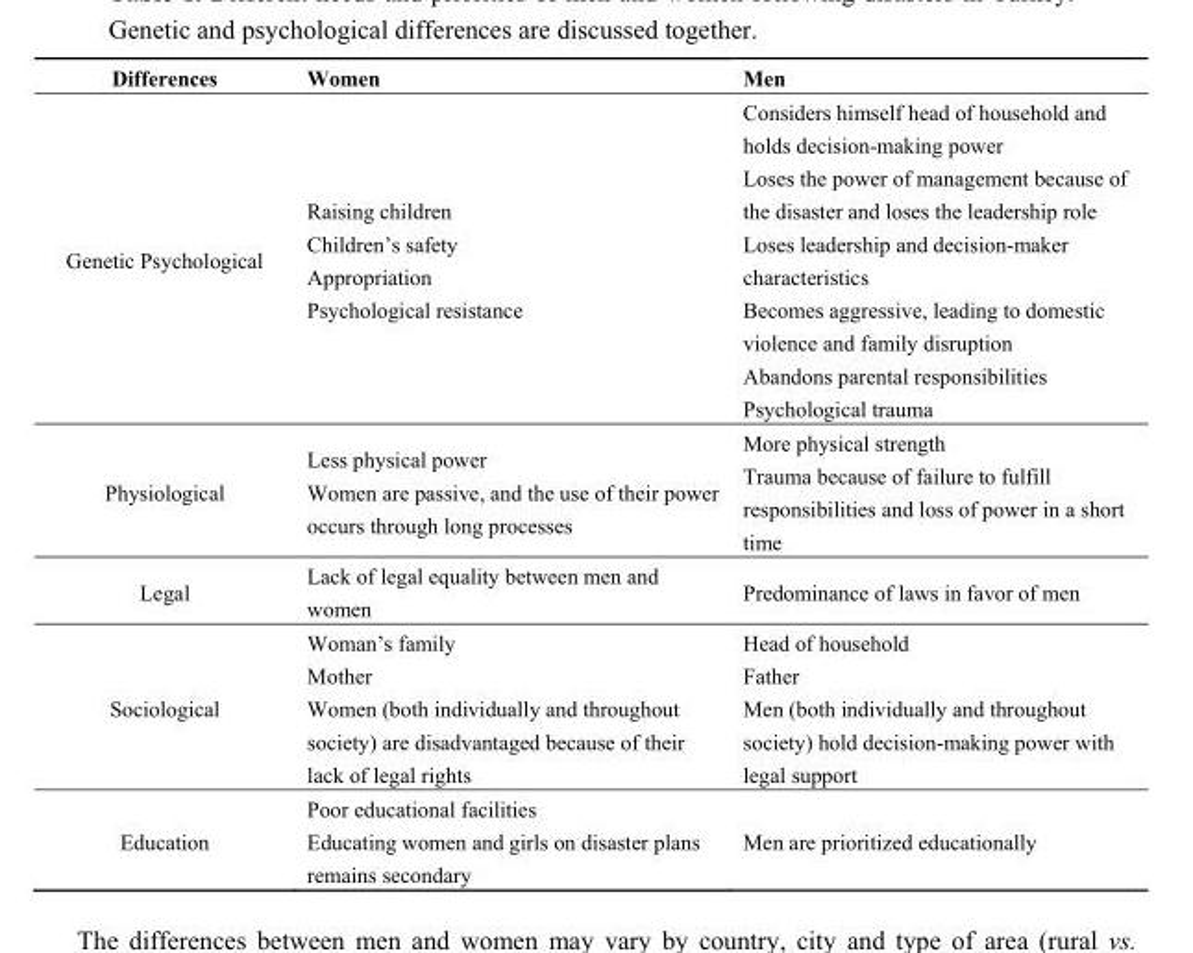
<table><thead><tr><td>Differences</td><td>Women</td><td>Men</td></tr></thead><tbody><tr><td>Genetic Psychological</td><td>Raising children Children’s safety Appropriation Psychological resistance</td><td>Considers himself head of household and holds decision-making power Loses the power of management because of the disaster and loses the leadership role Loses leadership and decision-maker characteristics Becomes aggressive, leading to domestic violence and family disruption Abandons parental responsibilities Psychological trauma</td></tr><tr><td>Physiological</td><td>Less physical power Women are passive, and the use of their power occurs through long processes</td><td>More physical strength Trauma because of failure to fulfill responsibilities and loss of power in a short time</td></tr><tr><td>Legal</td><td>Lack of legal equality between men and women</td><td>Predominance of laws in favor of men</td></tr><tr><td>Sociological</td><td>Woman’s family Mother Women (both individually and throughout society) are disadvantaged because of their lack of legal rights</td><td>Head of household Father Men (both individually and throughout society) hold decision-making power with legal support</td></tr><tr><td>Education</td><td>Poor educational facilities Educating women and girls on disaster plans remains secondary</td><td>Men are prioritized educationally</td></tr></tbody></table>